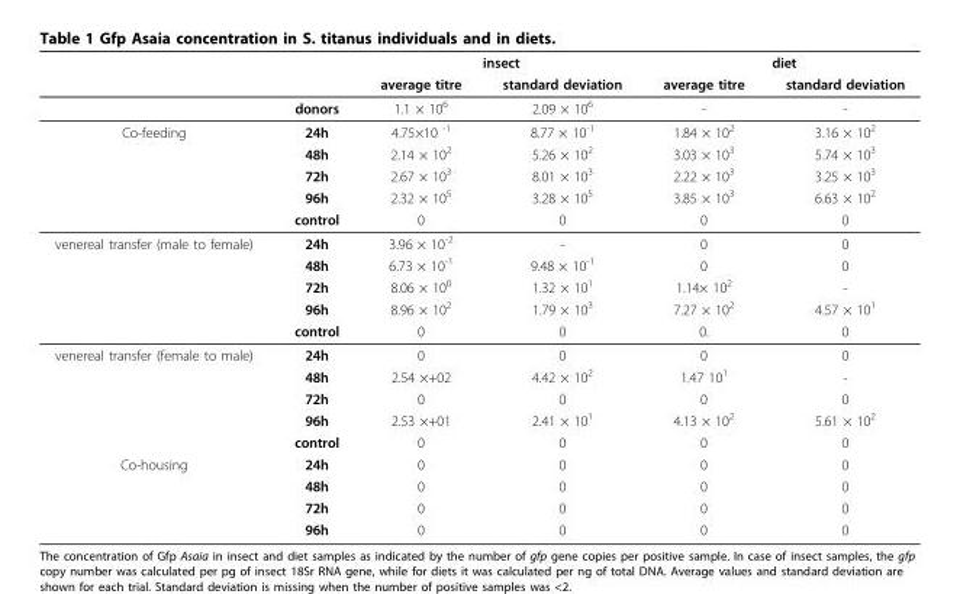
<table><thead><tr><td rowspan="2"></td><td rowspan="2"></td><td colspan="2">insect</td><td colspan="2">diet</td></tr><tr><td>average titre</td><td>standard deviation</td><td>average titre</td><td>standard deviation</td></tr></thead><tbody><tr><td></td><td>donors</td><td>1.1 × 10<sup>6</sup></td><td>2.09 × 10<sup>6</sup></td><td>-</td><td>-</td></tr><tr><td rowspan="5">Co-feeding</td><td>24h</td><td>4.75×10 <sup>-1</sup></td><td>8.77 × 10<sup>-1</sup></td><td>1.84 × 10<sup>2</sup></td><td>3.16 × 10<sup>2</sup></td></tr><tr><td>48h</td><td>2.14 × 10<sup>2</sup></td><td>5.26 × 10<sup>2</sup></td><td>3.03 × 10<sup>3</sup></td><td>5.74 × 10<sup>3</sup></td></tr><tr><td>72h</td><td>2.67 × 10<sup>3</sup></td><td>8.01 × 10<sup>3</sup></td><td>2.22 × 10<sup>3</sup></td><td>3.25 × 10<sup>3</sup></td></tr><tr><td>96h</td><td>2.32 × 10<sup>5</sup></td><td>3.28 × 10<sup>5</sup></td><td>3.85 × 10<sup>3</sup></td><td>6.63 × 10<sup>2</sup></td></tr><tr><td>control</td><td>0</td><td>0</td><td>0</td><td>0</td></tr><tr><td rowspan="5">venereal transfer (male to female)</td><td>24h</td><td>3.96 × 10<sup>-2</sup></td><td>-</td><td>0</td><td>0</td></tr><tr><td>48h</td><td>6.73 × 10<sup>-1</sup></td><td>9.48 × 10<sup>-1</sup></td><td>0</td><td>0</td></tr><tr><td>72h</td><td>8.06 × 10<sup>0</sup></td><td>1.32 × 10<sup>1</sup></td><td>1.14× 10<sup>2</sup></td><td>-</td></tr><tr><td>96h</td><td>8.96 × 10<sup>2</sup></td><td>1.79 × 10<sup>3</sup></td><td>7.27 × 10<sup>2</sup></td><td>4.57 × 10<sup>1</sup></td></tr><tr><td>control</td><td>0</td><td>0</td><td>0.</td><td>0</td></tr><tr><td rowspan="5">venereal transfer (female to male)</td><td>24h</td><td>0</td><td>0</td><td>0</td><td>0</td></tr><tr><td>48h</td><td>2.54 ×+02</td><td>4.42 × 10<sup>2</sup></td><td>1.47 10<sup>1</sup></td><td>-</td></tr><tr><td>72h</td><td>0</td><td>0</td><td>0</td><td>0</td></tr><tr><td>96h</td><td>2.53 ×+01</td><td>2.41 × 10<sup>1</sup></td><td>4.13 × 10<sup>2</sup></td><td>5.61 × 10<sup>2</sup></td></tr><tr><td>control</td><td>0</td><td>0</td><td>0</td><td>0</td></tr><tr><td rowspan="4">Co-housing</td><td>24h</td><td>0</td><td>0</td><td>0</td><td>0</td></tr><tr><td>48h</td><td>0</td><td>0</td><td>0</td><td>0</td></tr><tr><td>72h</td><td>0</td><td>0</td><td>0</td><td>0</td></tr><tr><td>96h</td><td>0</td><td>0</td><td>0</td><td>0</td></tr></tbody></table>